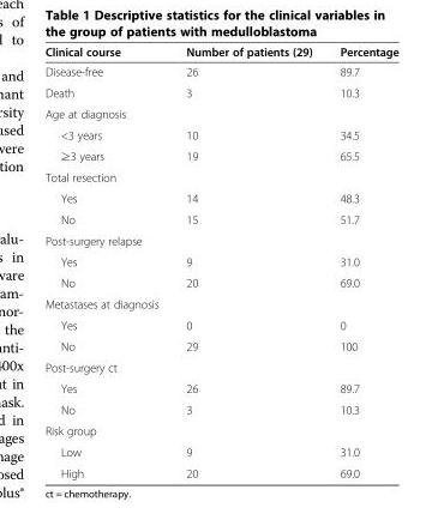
<table><thead><tr><td>Clinical course</td><td>Number of patients (29)</td><td>Percentage</td></tr></thead><tbody><tr><td>Disease-free</td><td>26</td><td>89.7</td></tr><tr><td>Death</td><td>3</td><td>10.3</td></tr><tr><td colspan="3">Age at diagnosis</td></tr><tr><td>&lt;3 years</td><td>10</td><td>34.5</td></tr><tr><td>≥3 years</td><td>19</td><td>65.5</td></tr><tr><td colspan="3">Total resection</td></tr><tr><td>Yes</td><td>14</td><td>48.3</td></tr><tr><td>No</td><td>15</td><td>51.7</td></tr><tr><td colspan="3">Post-surgery relapse</td></tr><tr><td>Yes</td><td>9</td><td>31.0</td></tr><tr><td>No</td><td>20</td><td>69.0</td></tr><tr><td colspan="3">Metastases at diagnosis</td></tr><tr><td>Yes</td><td>0</td><td>0</td></tr><tr><td>No</td><td>29</td><td>100</td></tr><tr><td colspan="3">Post-surgery ct</td></tr><tr><td>Yes</td><td>26</td><td>89.7</td></tr><tr><td>No</td><td>3</td><td>10.3</td></tr><tr><td colspan="3">Risk group</td></tr><tr><td>Low</td><td>9</td><td>31.0</td></tr><tr><td>High</td><td>20</td><td>69.0</td></tr></tbody></table>